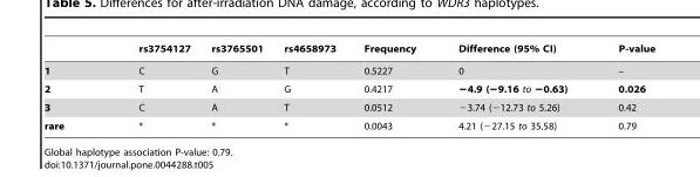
<table><thead><tr><td></td><td>rs3754127</td><td>rs3765501</td><td>rs4658973</td><td>Frequency</td><td>Difference (95% CI)</td><td>P-value</td></tr></thead><tbody><tr><td>1</td><td>C</td><td>G</td><td>T</td><td>0.5227</td><td>0</td><td>–</td></tr><tr><td>2</td><td>T</td><td>A</td><td>G</td><td>0.4217</td><td>−4.9 (−9.16 to −0.63)</td><td>0.026</td></tr><tr><td>3</td><td>C</td><td>A</td><td>T</td><td>0.0512</td><td>−3.74 (−12.73 to 5.26)</td><td>0.42</td></tr><tr><td>rare</td><td>*</td><td>*</td><td>*</td><td>0.0043</td><td>4.21 (−27.15 to 35.58)</td><td>0.79</td></tr></tbody></table>